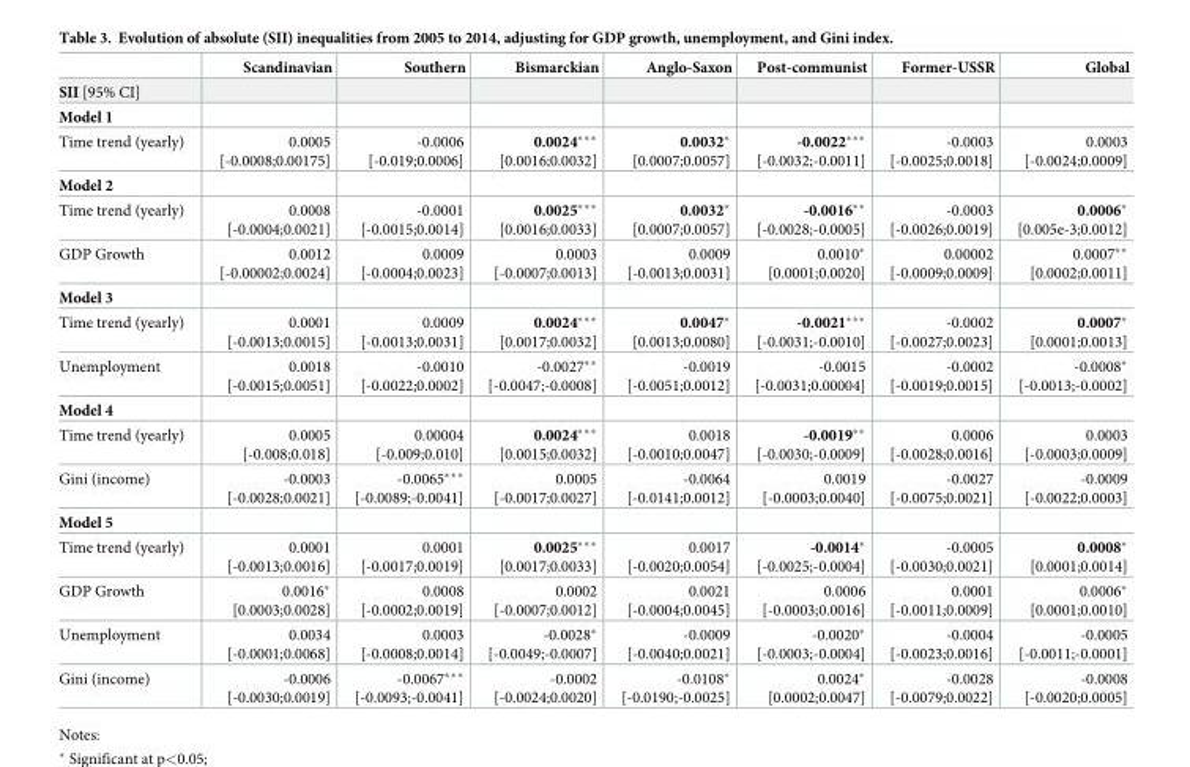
<table><thead><tr><td></td><td>Scandinavian</td><td>Southern</td><td>Bismarckian</td><td>Anglo-Saxon</td><td>Post-communist</td><td>Former-USSR</td><td>Global</td></tr></thead><tbody><tr><td colspan="8">SII [95% CI]</td></tr><tr><td colspan="8">Model 1</td></tr><tr><td>Time trend (yearly)</td><td>0.0005 [-0.0008;0.00175]</td><td>-0.0006 [-0.019;0.0006]</td><td>0.0024*** [0.0016;0.0032]</td><td>0.0032* [0.0007;0.0057]</td><td>-0.0022*** [-0.0032;-0.0011]</td><td>-0.0003 [-0.0025;0.0018]</td><td>0.0003 [-0.0024;0.0009]</td></tr><tr><td colspan="8">Model 2</td></tr><tr><td>Time trend (yearly)</td><td>0.0008 [-0.0004;0.0021]</td><td>-0.0001 [-0.0015;0.0014]</td><td>0.0025*** [0.0016;0.0033]</td><td>0.0032* [0.0007;0.0057]</td><td>-0.0016** [-0.0028;-0.0005]</td><td>-0.0003 [-0.0026;0.0019]</td><td>0.0006* [0.005e-3;0.0012]</td></tr><tr><td>GDP Growth</td><td>0.0012 [-0.00002;0.0024]</td><td>0.0009 [-0.0004;0.0023]</td><td>0.0003 [-0.0007;0.0013]</td><td>0.0009 [-0.0013;0.0031]</td><td>0.0010* [0.0001;0.0020]</td><td>0.00002 [-0.0009;0.0009]</td><td>0.0007** [0.0002;0.0011]</td></tr><tr><td colspan="8">Model 3</td></tr><tr><td>Time trend (yearly)</td><td>0.0001 [-0.0013;0.0015]</td><td>0.0009 [-0.0013;0.0031]</td><td>0.0024*** [0.0017;0.0032]</td><td>0.0047* [0.0013;0.0080]</td><td>-0.0021*** [-0.0031;-0.0010]</td><td>-0.0002 [-0.0027;0.0023]</td><td>0.0007* [0.0001;0.0013]</td></tr><tr><td>Unemployment</td><td>0.0018 [-0.0015;0.0051]</td><td>-0.0010 [-0.0022;0.0002]</td><td>-0.0027** [-0.0047;-0.0008]</td><td>-0.0019 [-0.0051;0.0012]</td><td>-0.0015 [-0.0031;0.00004]</td><td>-0.0002 [-0.0019;0.0015]</td><td>-0.0008* [-0.0013;-0.0002]</td></tr><tr><td colspan="8">Model 4</td></tr><tr><td>Time trend (yearly)</td><td>0.0005 [-0.008;0.018]</td><td>0.00004 [-0.009;0.010]</td><td>0.0024*** [0.0015;0.0032]</td><td>0.0018 [-0.0010;0.0047]</td><td>-0.0019** [-0.0030;-0.0009]</td><td>0.0006 [-0.0028;0.0016]</td><td>0.0003 [-0.0003;0.0009]</td></tr><tr><td>Gini (income)</td><td>-0.0003 [-0.0028;0.0021]</td><td>-0.0065*** [-0.0089;-0.0041]</td><td>0.0005 [-0.0017;0.0027]</td><td>-0.0064 [-0.0141;0.0012]</td><td>0.0019 [-0.0003;0.0040]</td><td>-0.0027 [-0.0075;0.0021]</td><td>-0.0009 [-0.0022;0.0003]</td></tr><tr><td colspan="8">Model 5</td></tr><tr><td>Time trend (yearly)</td><td>0.0001 [-0.0013;0.0016]</td><td>0.0001 [-0.0017;0.0019]</td><td>0.0025*** [0.0017;0.0033]</td><td>0.0017 [-0.0020;0.0054]</td><td>-0.0014* [-0.0025;-0.0004]</td><td>-0.0005 [-0.0030;0.0021]</td><td>0.0008* [0.0001;0.0014]</td></tr><tr><td>GDP Growth</td><td>0.0016* [0.0003;0.0028]</td><td>0.0008 [-0.0002;0.0019]</td><td>0.0002 [-0.0007;0.0012]</td><td>0.0021 [-0.0004;0.0045]</td><td>0.0006 [-0.0003;0.0016]</td><td>0.0001 [-0.0011;0.0009]</td><td>0.0006* [0.0001;0.0010]</td></tr><tr><td>Unemployment</td><td>0.0034 [-0.0001;0.0068]</td><td>0.0003 [-0.0008;0.0014]</td><td>-0.0028* [-0.0049;-0.0007]</td><td>-0.0009 [-0.0040;0.0021]</td><td>-0.0020* [-0.0003;-0.0004]</td><td>-0.0004 [-0.0023;0.0016]</td><td>-0.0005 [-0.0011;-0.0001]</td></tr><tr><td>Gini (income)</td><td>-0.0006 [-0.0030;0.0019]</td><td>-0.0067*** [-0.0093;-0.0041]</td><td>-0.0002 [-0.0024;0.0020]</td><td>-0.0108* [-0.0190;-0.0025]</td><td>0.0024* [0.0002;0.0047]</td><td>-0.0028 [-0.0079;0.0022]</td><td>-0.0008 [-0.0020;0.0005]</td></tr></tbody></table>